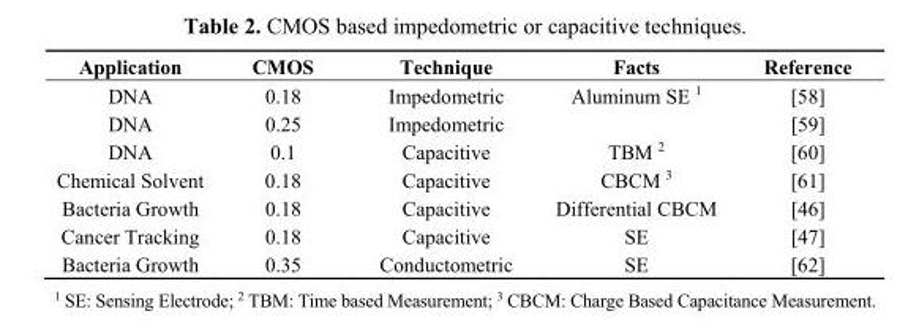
<table><thead><tr><td>Application</td><td>CMOS</td><td>Technique</td><td>Facts</td><td>Reference</td></tr></thead><tbody><tr><td>DNA</td><td>0.18</td><td>Impedometric</td><td>Aluminum SE <sup>1</sup></td><td>[58]</td></tr><tr><td>DNA</td><td>0.25</td><td>Impedometric</td><td></td><td>[59]</td></tr><tr><td>DNA</td><td>0.1</td><td>Capacitive</td><td>TBM <sup>2</sup></td><td>[60]</td></tr><tr><td>Chemical Solvent</td><td>0.18</td><td>Capacitive</td><td>CBCM <sup>3</sup></td><td>[61]</td></tr><tr><td>Bacteria Growth</td><td>0.18</td><td>Capacitive</td><td>Differential CBCM</td><td>[46]</td></tr><tr><td>Cancer Tracking</td><td>0.18</td><td>Capacitive</td><td>SE</td><td>[47]</td></tr><tr><td>Bacteria Growth</td><td>0.35</td><td>Conductometric</td><td>SE</td><td>[62]</td></tr></tbody></table>